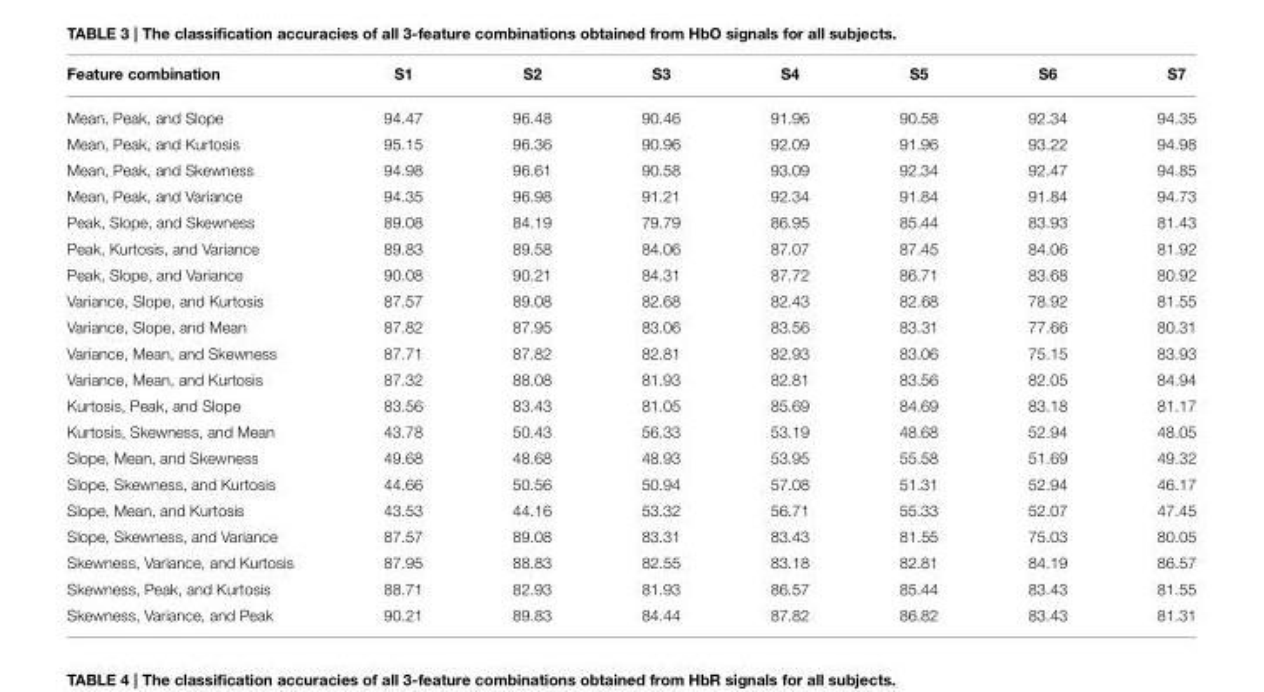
<table><thead><tr><td>Feature combination</td><td>S1</td><td>S2</td><td>S3</td><td>S4</td><td>S5</td><td>S6</td><td>S7</td></tr></thead><tbody><tr><td>Mean, Peak, and Slope</td><td>94.47</td><td>96.48</td><td>90.46</td><td>91.96</td><td>90.58</td><td>92.34</td><td>94.35</td></tr><tr><td>Mean, Peak, and Kurtosis</td><td>95.15</td><td>96.36</td><td>90.96</td><td>92.09</td><td>91.96</td><td>93.22</td><td>94.98</td></tr><tr><td>Mean, Peak, and Skewness</td><td>94.98</td><td>96.61</td><td>90.58</td><td>93.09</td><td>92.34</td><td>92.47</td><td>94.85</td></tr><tr><td>Mean, Peak, and Variance</td><td>94.35</td><td>96.98</td><td>91.21</td><td>92.34</td><td>91.84</td><td>91.84</td><td>94.73</td></tr><tr><td>Peak, Slope, and Skewness</td><td>89.08</td><td>84.19</td><td>79.79</td><td>86.95</td><td>85.44</td><td>83.93</td><td>81.43</td></tr><tr><td>Peak, Kurtosis, and Variance</td><td>89.83</td><td>89.58</td><td>84.06</td><td>87.07</td><td>87.45</td><td>84.06</td><td>81.92</td></tr><tr><td>Peak, Slope, and Variance</td><td>90.08</td><td>90.21</td><td>84.31</td><td>87.72</td><td>86.71</td><td>83.68</td><td>80.92</td></tr><tr><td>Variance, Slope, and Kurtosis</td><td>87.57</td><td>89.08</td><td>82.68</td><td>82.43</td><td>82.68</td><td>78.92</td><td>81.55</td></tr><tr><td>Variance, Slope, and Mean</td><td>87.82</td><td>87.95</td><td>83.06</td><td>83.56</td><td>83.31</td><td>77.66</td><td>80.31</td></tr><tr><td>Variance, Mean, and Skewness</td><td>87.71</td><td>87.82</td><td>82.81</td><td>82.93</td><td>83.06</td><td>75.15</td><td>83.93</td></tr><tr><td>Variance, Mean, and Kurtosis</td><td>87.32</td><td>88.08</td><td>81.93</td><td>82.81</td><td>83.56</td><td>82.05</td><td>84.94</td></tr><tr><td>Kurtosis, Peak, and Slope</td><td>83.56</td><td>83.43</td><td>81.05</td><td>85.69</td><td>84.69</td><td>83.18</td><td>81.17</td></tr><tr><td>Kurtosis, Skewness, and Mean</td><td>43.78</td><td>50.43</td><td>56.33</td><td>53.19</td><td>48.68</td><td>52.94</td><td>48.05</td></tr><tr><td>Slope, Mean, and Skewness</td><td>49.68</td><td>48.68</td><td>48.93</td><td>53.95</td><td>55.58</td><td>51.69</td><td>49.32</td></tr><tr><td>Slope, Skewness, and Kurtosis</td><td>44.66</td><td>50.56</td><td>50.94</td><td>57.08</td><td>51.31</td><td>52.94</td><td>46.17</td></tr><tr><td>Slope, Mean, and Kurtosis</td><td>43.53</td><td>44.16</td><td>53.32</td><td>56.71</td><td>55.33</td><td>52.07</td><td>47.45</td></tr><tr><td>Slope, Skewness, and Variance</td><td>87.57</td><td>89.08</td><td>83.31</td><td>83.43</td><td>81.55</td><td>75.03</td><td>80.05</td></tr><tr><td>Skewness, Variance, and Kurtosis</td><td>87.95</td><td>88.83</td><td>82.55</td><td>83.18</td><td>82.81</td><td>84.19</td><td>86.57</td></tr><tr><td>Skewness, Peak, and Kurtosis</td><td>88.71</td><td>82.93</td><td>81.93</td><td>86.57</td><td>85.44</td><td>83.43</td><td>81.55</td></tr><tr><td>Skewness, Variance, and Peak</td><td>90.21</td><td>89.83</td><td>84.44</td><td>87.82</td><td>86.82</td><td>83.43</td><td>81.31</td></tr></tbody></table>